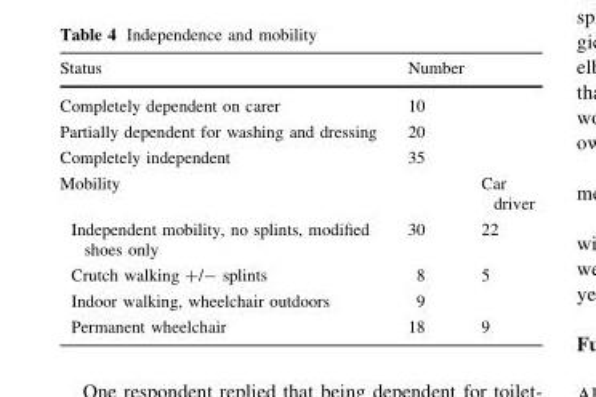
<table><thead><tr><td>Status</td><td>Number</td><td></td></tr></thead><tbody><tr><td>Completely dependent on carer</td><td>10</td><td></td></tr><tr><td>Partially dependent for washing and dressing</td><td>20</td><td></td></tr><tr><td>Completely independent</td><td>35</td><td></td></tr><tr><td>Mobility</td><td></td><td>Car driver</td></tr><tr><td>Independent mobility, no splints, modified shoes only</td><td>30</td><td>22</td></tr><tr><td>Crutch walking +/- splints</td><td>8</td><td>5</td></tr><tr><td>Indoor walking, wheelchair outdoors</td><td>9</td><td></td></tr><tr><td>Permanent wheelchair</td><td>18</td><td>9</td></tr></tbody></table>